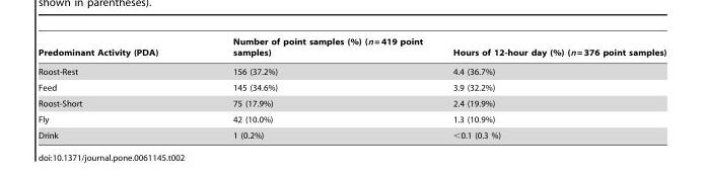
<table><thead><tr><td>Predominant Activity (PDA)</td><td>Number of point samples (%) (n = 419 point samples)</td><td>Hours of 12-hour day (%) (n = 376 point samples)</td></tr></thead><tbody><tr><td>Roost-Rest</td><td>156 (37.2%)</td><td>4.4 (36.7%)</td></tr><tr><td>Feed</td><td>145 (34.6%)</td><td>3.9 (32.2%)</td></tr><tr><td>Roost-Short</td><td>75 (17.9%)</td><td>2.4 (19.9%)</td></tr><tr><td>Fly</td><td>42 (10.0%)</td><td>1.3 (10.9%)</td></tr><tr><td>Drink</td><td>1 (0.2%)</td><td>&lt;0.1 (0.3 %)</td></tr></tbody></table>